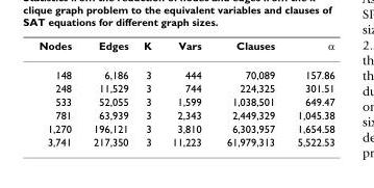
<table><thead><tr><td>Nodes</td><td>Edges</td><td>K</td><td>Vars</td><td>Clauses</td><td>α</td></tr></thead><tbody><tr><td>148</td><td>6,186</td><td>3</td><td>444</td><td>70,089</td><td>157.86</td></tr><tr><td>248</td><td>11,529</td><td>3</td><td>744</td><td>224,325</td><td>301.51</td></tr><tr><td>533</td><td>52,055</td><td>3</td><td>1,599</td><td>1,038,501</td><td>649.47</td></tr><tr><td>781</td><td>63,939</td><td>3</td><td>2,343</td><td>2,449,329</td><td>1,045.38</td></tr><tr><td>1,270</td><td>196,121</td><td>3</td><td>3,810</td><td>6,303,957</td><td>1,654.58</td></tr><tr><td>3,741</td><td>217,350</td><td>3</td><td>11,223</td><td>61,979,313</td><td>5,522.53</td></tr></tbody></table>